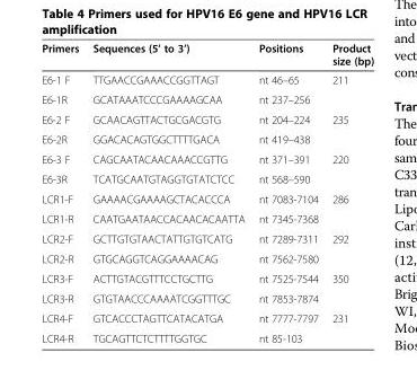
<table><thead><tr><td>Primers</td><td>Sequences (5’ to 3’)</td><td>Positions</td><td>Product size (bp)</td></tr></thead><tbody><tr><td>E6-1 F</td><td>TTGAACCGAAACCGGTTAGT</td><td>nt 46–65</td><td rowspan="2">211</td></tr><tr><td>E6-1R</td><td>GCATAAATCCCGAAAAGCAA</td><td>nt 237–256</td></tr><tr><td>E6-2 F</td><td>GCAACAGTTACTGCGACGTG</td><td>nt 204–224</td><td rowspan="2">235</td></tr><tr><td>E6-2R</td><td>GGACACAGTGGCTTTTGACA</td><td>nt 419–438</td></tr><tr><td>E6-3 F</td><td>CAGCAATACAACAAACCGTTG</td><td>nt 371–391</td><td rowspan="2">220</td></tr><tr><td>E6-3R</td><td>TCATGCAATGTAGGTGTATCTCC</td><td>nt 568–590</td></tr><tr><td>LCR1-F</td><td>GAAAACGAAAAGCTACACCCA</td><td>nt 7083-7104</td><td rowspan="2">286</td></tr><tr><td>LCR1-R</td><td>CAATGAATAACCACAACACAATTA</td><td>nt 7345-7368</td></tr><tr><td>LCR2-F</td><td>GCTTGTGTAACTATTGTGTCATG</td><td>nt 7289-7311</td><td rowspan="2">292</td></tr><tr><td>LCR2-R</td><td>GTGCAGGTCAGGAAAACAG</td><td>nt 7562-7580</td></tr><tr><td>LCR3-F</td><td>ACTTGTACGTTTCCTGCTTG</td><td>nt 7525-7544</td><td rowspan="2">350</td></tr><tr><td>LCR3-R</td><td>GTGTAACCCAAAATCGGTTTGC</td><td>nt 7853-7874</td></tr><tr><td>LCR4-F</td><td>GTCACCCTAGTTCATACATGA</td><td>nt 7777-7797</td><td>231</td></tr><tr><td>LCR4-R</td><td>TGCAGTTCTCTTTTGGTGC</td><td>nt 85-103</td><td></td></tr></tbody></table>